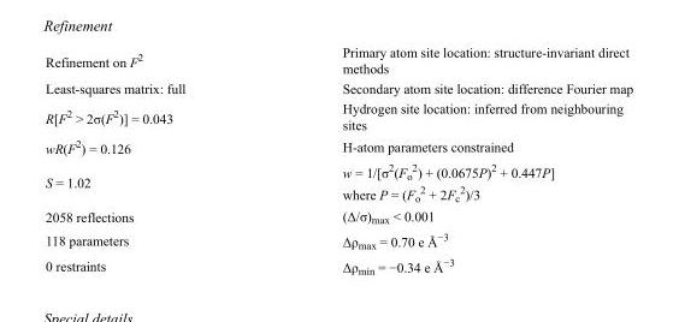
<table><tbody><tr><td>Refinement on F<sup>2</sup></td><td>Primary atom site location: structure-invariant direct methods</td></tr><tr><td>Least-squares matrix: full</td><td>Secondary atom site location: difference Fourier map</td></tr><tr><td>R[F<sup>2</sup> &gt; 2σ(F<sup>2</sup>)] = 0.043</td><td>Hydrogen site location: inferred from neighbouring sites</td></tr><tr><td>wR(F<sup>2</sup>) = 0.126</td><td>H-atom parameters constrained</td></tr><tr><td>S = 1.02</td><td>w = 1/[σ<sup>2</sup>(F<sub>o</sub> <sup>2</sup>) + (0.0675P)<sup>2</sup> + 0.447P] where P = (F<sub>o</sub> <sup>2</sup> + 2F<sub>c</sub> <sup>2</sup>)/3</td></tr><tr><td>2058 reflections</td><td>(Δ/σ)<sub>max</sub> &lt; 0.001</td></tr><tr><td>118 parameters</td><td>Δρ<sub>max</sub> = 0.70 e Å<sup>−3</sup></td></tr><tr><td>0 restraints</td><td>Δρ<sub>min</sub> = −0.34 e Å<sup>−3</sup></td></tr></tbody></table>